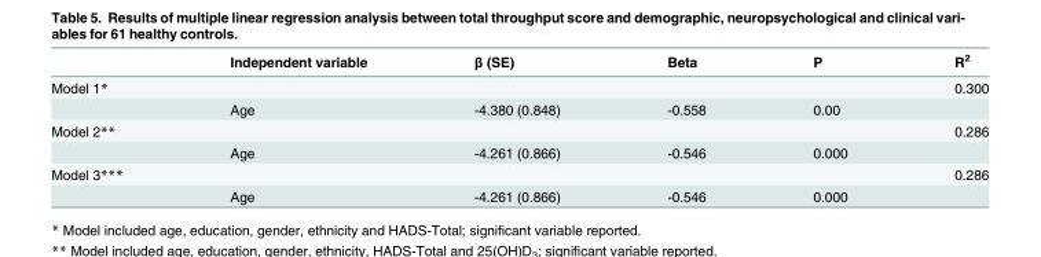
<table><thead><tr><td></td><td>Independent variable</td><td>β (SE)</td><td>Beta</td><td>P</td><td>R<sup>2</sup></td></tr></thead><tbody><tr><td rowspan="2">Model 1*</td><td></td><td></td><td></td><td></td><td>0.300</td></tr><tr><td>Age</td><td>-4.380 (0.848)</td><td>-0.558</td><td>0.00</td><td></td></tr><tr><td rowspan="2">Model 2**</td><td></td><td></td><td></td><td></td><td>0.286</td></tr><tr><td>Age</td><td>-4.261 (0.866)</td><td>-0.546</td><td>0.000</td><td></td></tr><tr><td rowspan="2">Model 3***</td><td></td><td></td><td></td><td></td><td>0.286</td></tr><tr><td>Age</td><td>-4.261 (0.866)</td><td>-0.546</td><td>0.000</td><td></td></tr></tbody></table>